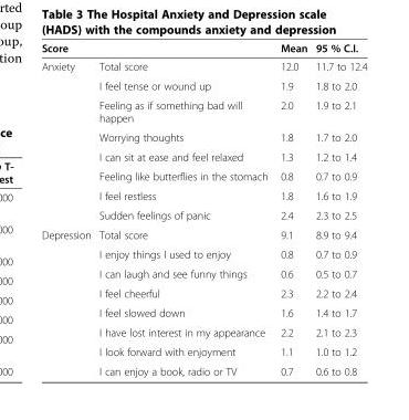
<table><thead><tr><td colspan="2">Score</td><td rowspan="2">Mean 12.0</td><td rowspan="2">95 % C.I. 11.7 to 12.4</td></tr><tr><td>Anxiety</td><td>Total score</td></tr></thead><tbody><tr><td></td><td>I feel tense or wound up</td><td>1.9</td><td>1.8 to 2.0</td></tr><tr><td></td><td>Feeling as if something bad will happen</td><td>2.0</td><td>1.9 to 2.1</td></tr><tr><td></td><td>Worrying thoughts</td><td>1.8</td><td>1.7 to 2.0</td></tr><tr><td></td><td>I can sit at ease and feel relaxed</td><td>1.3</td><td>1.2 to 1.4</td></tr><tr><td></td><td>Feeling like butterflies in the stomach</td><td>0.8</td><td>0.7 to 0.9</td></tr><tr><td></td><td>I feel restless</td><td>1.8</td><td>1.6 to 1.9</td></tr><tr><td></td><td>Sudden feelings of panic</td><td>2.4</td><td>2.3 to 2.5</td></tr><tr><td rowspan="8">Depression</td><td>Total score</td><td>9.1</td><td>8.9 to 9.4</td></tr><tr><td>I enjoy things I used to enjoy</td><td>0.8</td><td>0.7 to 0.9</td></tr><tr><td>I can laugh and see funny things</td><td>0.6</td><td>0.5 to 0.7</td></tr><tr><td>I feel cheerful</td><td>2.3</td><td>2.2 to 2.4</td></tr><tr><td>I feel slowed down</td><td>1.6</td><td>1.4 to 1.7</td></tr><tr><td>I have lost interest in my appearance</td><td>2.2</td><td>2.1 to 2.3</td></tr><tr><td>I look forward with enjoyment</td><td>1.1</td><td>1.0 to 1.2</td></tr><tr><td>I can enjoy a book, radio or TV</td><td>0.7</td><td>0.6 to 0.8</td></tr></tbody></table>